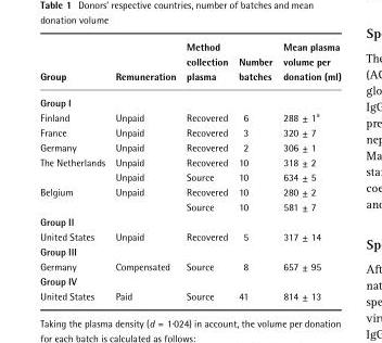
<table><thead><tr><td>Group</td><td>Remuneration</td><td>Method collection plasma</td><td>Number batches</td><td>Mean plasma volume per donation (ml)</td></tr></thead><tbody><tr><td colspan="5">Group I</td></tr><tr><td>Finland</td><td>Unpaid</td><td>Recovered</td><td>6</td><td>288 ± 1<sup>a</sup></td></tr><tr><td>France</td><td>Unpaid</td><td>Recovered</td><td>3</td><td>320 ± 7</td></tr><tr><td>Germany</td><td>Unpaid</td><td>Recovered</td><td>2</td><td>306 ± 1</td></tr><tr><td rowspan="2">The Netherlands</td><td>Unpaid</td><td>Recovered</td><td>10</td><td>318 ± 2</td></tr><tr><td>Unpaid</td><td>Source</td><td>10</td><td>634 ± 5</td></tr><tr><td rowspan="2">Belgium</td><td>Unpaid</td><td>Recovered</td><td>10</td><td>280 ± 2</td></tr><tr><td></td><td>Source</td><td>10</td><td>581 ± 7</td></tr><tr><td colspan="5">Group II</td></tr><tr><td>United States</td><td>Unpaid</td><td>Recovered</td><td>5</td><td>317 ± 14</td></tr><tr><td colspan="5">Group III</td></tr><tr><td>Germany</td><td>Compensated</td><td>Source</td><td>8</td><td>657 ± 95</td></tr><tr><td colspan="5">Group IV</td></tr><tr><td>United States</td><td>Paid</td><td>Source</td><td>41</td><td>814 ± 13</td></tr></tbody></table>